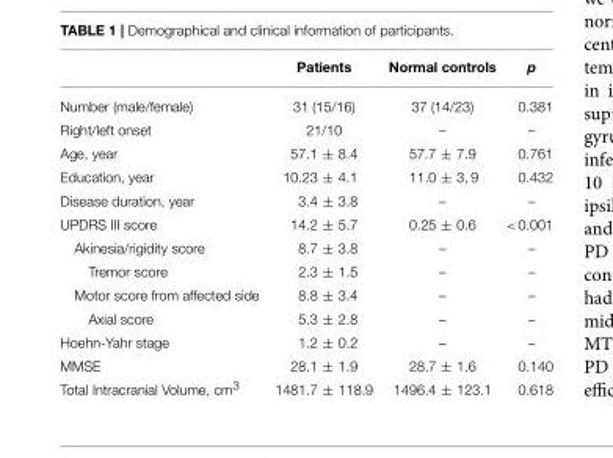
<table><thead><tr><td></td><td>Patients</td><td>Normal controls</td><td>p</td></tr></thead><tbody><tr><td>Number (male/female)</td><td>31 (15/16)</td><td>37 (14/23)</td><td>0.381</td></tr><tr><td>Right/left onset</td><td>21/10</td><td>–</td><td>–</td></tr><tr><td>Age, year</td><td>57.1 ± 8.4</td><td>57.7 ± 7.9</td><td>0.761</td></tr><tr><td>Education, year</td><td>10.23 ± 4.1</td><td>11.0 ± 3, 9</td><td>0.432</td></tr><tr><td>Disease duration, year</td><td>3.4 ± 3.8</td><td>–</td><td>–</td></tr><tr><td>UPDRS III score</td><td>14.2 ± 5.7</td><td>0.25 ± 0.6</td><td>&lt;0.001</td></tr><tr><td>Akinesia/rigidity score</td><td>8.7 ± 3.8</td><td>–</td><td>–</td></tr><tr><td>Tremor score</td><td>2.3 ± 1.5</td><td>–</td><td>–</td></tr><tr><td>Motor score from affected side</td><td>8.8 ± 3.4</td><td>–</td><td>–</td></tr><tr><td>Axial score</td><td>5.3 ± 2.8</td><td>–</td><td>–</td></tr><tr><td>Hoehn-Yahr stage</td><td>1.2 ± 0.2</td><td>–</td><td>–</td></tr><tr><td>MMSE</td><td>28.1 ± 1.9</td><td>28.7 ± 1.6</td><td>0.140</td></tr><tr><td>Total Intracranial Volume, cm<sup>3</sup></td><td>1481.7 ± 118.9</td><td>1496.4 ± 123.1</td><td>0.618</td></tr></tbody></table>